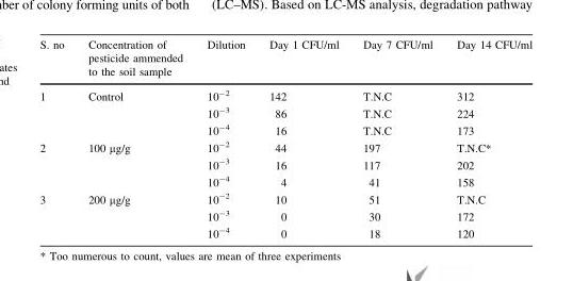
<table><thead><tr><td>S. no</td><td>Concentration of pesticide ammended to the soil sample</td><td>Dilution</td><td>Day 1 CFU/ml</td><td>Day 7 CFU/ml</td><td>Day 14 CFU/ml</td></tr></thead><tbody><tr><td rowspan="3">1</td><td rowspan="3">Control</td><td>10<sup>-2</sup></td><td>142</td><td>T.N.C</td><td>312</td></tr><tr><td>10<sup>-3</sup></td><td>86</td><td>T.N.C</td><td>224</td></tr><tr><td>10<sup>-4</sup></td><td>16</td><td>T.N.C</td><td>173</td></tr><tr><td rowspan="3">2</td><td rowspan="3">100 µg/g</td><td>10<sup>-2</sup></td><td>44</td><td>197</td><td>T.N.C*</td></tr><tr><td>10<sup>-3</sup></td><td>16</td><td>117</td><td>202</td></tr><tr><td>10<sup>-4</sup></td><td>4</td><td>41</td><td>158</td></tr><tr><td rowspan="3">3</td><td rowspan="3">200 µg/g</td><td>10<sup>-2</sup></td><td>10</td><td>51</td><td>T.N.C</td></tr><tr><td>10<sup>-3</sup></td><td>0</td><td>30</td><td>172</td></tr><tr><td>10<sup>-4</sup></td><td>0</td><td>18</td><td>120</td></tr></tbody></table>